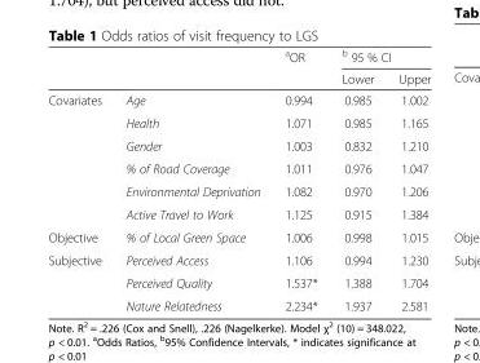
<table><thead><tr><td rowspan="2"></td><td rowspan="2"></td><td rowspan="2"><sup>a</sup>OR</td><td colspan="2"><sup>b</sup> 95 % CI</td></tr><tr><td>Lower</td><td>Upper</td></tr></thead><tbody><tr><td rowspan="6">Covariates</td><td>Age</td><td>0.994</td><td>0.985</td><td>1.002</td></tr><tr><td>Health</td><td>1.071</td><td>0.985</td><td>1.165</td></tr><tr><td>Gender</td><td>1.003</td><td>0.832</td><td>1.210</td></tr><tr><td>% of Road Coverage</td><td>1.011</td><td>0.976</td><td>1.047</td></tr><tr><td>Environmental Deprivation</td><td>1.082</td><td>0.970</td><td>1.206</td></tr><tr><td>Active Travel to Work</td><td>1.125</td><td>0.915</td><td>1.384</td></tr><tr><td>Objective</td><td>% of Local Green Space</td><td>1.006</td><td>0.998</td><td>1.015</td></tr><tr><td rowspan="3">Subjective</td><td>Perceived Access</td><td>1.106</td><td>0.994</td><td>1.230</td></tr><tr><td>Perceived Quality</td><td>1.537*</td><td>1.388</td><td>1.704</td></tr><tr><td>Nature Relatedness</td><td>2.234*</td><td>1.937</td><td>2.581</td></tr></tbody></table>